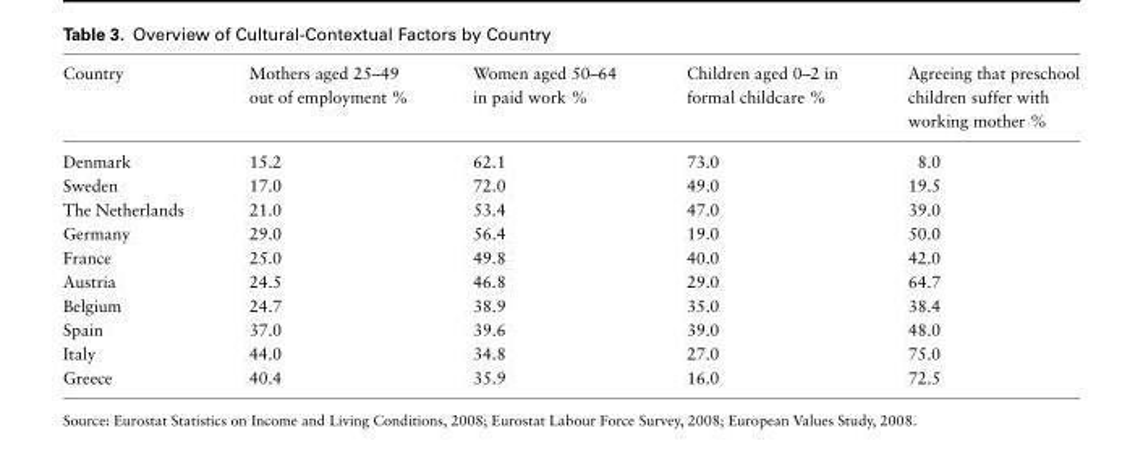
<table><thead><tr><td>Country</td><td>Mothers aged 25–49 out of employment %</td><td>Women aged 50–64 in paid work %</td><td>Children aged 0–2 in formal childcare %</td><td>Agreeing that preschool children suffer with working mother %</td></tr></thead><tbody><tr><td>Denmark</td><td>15.2</td><td>62.1</td><td>73.0</td><td>8.0</td></tr><tr><td>Sweden</td><td>17.0</td><td>72.0</td><td>49.0</td><td>19.5</td></tr><tr><td>The Netherlands</td><td>21.0</td><td>53.4</td><td>47.0</td><td>39.0</td></tr><tr><td>Germany</td><td>29.0</td><td>56.4</td><td>19.0</td><td>50.0</td></tr><tr><td>France</td><td>25.0</td><td>49.8</td><td>40.0</td><td>42.0</td></tr><tr><td>Austria</td><td>24.5</td><td>46.8</td><td>29.0</td><td>64.7</td></tr><tr><td>Belgium</td><td>24.7</td><td>38.9</td><td>35.0</td><td>38.4</td></tr><tr><td>Spain</td><td>37.0</td><td>39.6</td><td>39.0</td><td>48.0</td></tr><tr><td>Italy</td><td>44.0</td><td>34.8</td><td>27.0</td><td>75.0</td></tr><tr><td>Greece</td><td>40.4</td><td>35.9</td><td>16.0</td><td>72.5</td></tr></tbody></table>